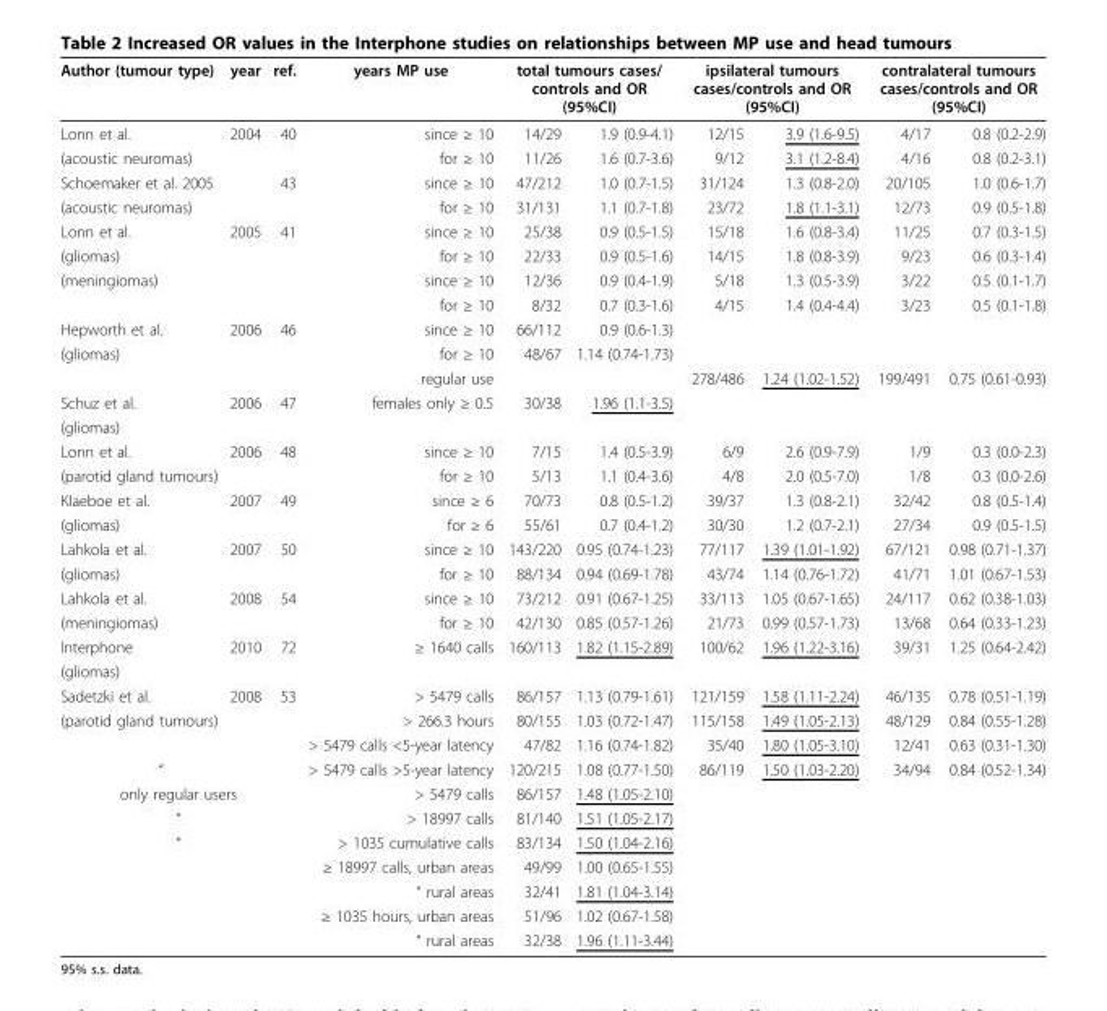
<table><thead><tr><td rowspan="2">Author (tumour type) Lonn et al.</td><td rowspan="2">year 2004</td><td rowspan="2">ref. 40</td><td rowspan="2">years MP use since ≥ 10</td><td colspan="2">total tumours cases/ controls and OR (95%CI)</td><td colspan="2">ipsilateral tumours cases/controls and OR (95%CI)</td><td colspan="2">contralateral tumours cases/controls and OR (95%CI)</td></tr><tr><td>14/29</td><td>1.9 (0.9-4.1)</td><td>12/15</td><td>3.9 (1.6-9.5)</td><td>4/17</td><td>0.8 (0.2-2.9)</td></tr></thead><tbody><tr><td>(acoustic neuromas)</td><td></td><td></td><td>for ≥ 10</td><td>11/26</td><td>1.6 (0.7-3.6)</td><td>9/12</td><td>3.1 (1.2-8.4)</td><td>4/16</td><td>0.8 (0.2-3.1)</td></tr><tr><td>Schoemaker et al. 2005</td><td></td><td>43</td><td>since ≥ 10</td><td>47/212</td><td>1.0 (0.7-1.5)</td><td>31/124</td><td>1.3 (0.8-2.0)</td><td>20/105</td><td>1.0 (0.6-1.7)</td></tr><tr><td>(acoustic neuromas)</td><td></td><td></td><td>for ≥ 10</td><td>31/131</td><td>1.1 (0.7-1.8)</td><td>23/72</td><td>1.8 (1.1-3.1)</td><td>12/73</td><td>0.9 (0.5-1.8)</td></tr><tr><td>Lonn et al.</td><td>2005</td><td>41</td><td>since ≥ 10</td><td>25/38</td><td>0.9 (0.5-1.5)</td><td>15/18</td><td>1.6 (0.8-3.4)</td><td>11/25</td><td>0.7 (0.3-1.5)</td></tr><tr><td>(gliomas)</td><td></td><td></td><td>for ≥ 10</td><td>22/33</td><td>0.9 (0.5-1.6)</td><td>14/15</td><td>1.8 (0.8-3.9)</td><td>9/23</td><td>0.6 (0.3-1.4)</td></tr><tr><td rowspan="2">(meningiomas)</td><td></td><td></td><td>since ≥ 10</td><td>12/36</td><td>0.9 (0.4-1.9)</td><td>5/18</td><td>1.3 (0.5-3.9)</td><td>3/22</td><td>0.5 (0.1-1.7)</td></tr><tr><td></td><td></td><td>for ≥ 10</td><td>8/32</td><td>0.7 (0.3-1.6)</td><td>4/15</td><td>1.4 (0.4-4.4)</td><td>3/23</td><td>0.5 (0.1-1.8)</td></tr><tr><td>Hepworth et al.</td><td>2006</td><td>46</td><td>since ≥ 10</td><td>66/112</td><td>0.9 (0.6-1.3)</td><td></td><td></td><td></td><td></td></tr><tr><td rowspan="2">(gliomas)</td><td></td><td></td><td>for ≥ 10</td><td>48/67</td><td>1.14 (0.74-1.73)</td><td></td><td></td><td></td><td></td></tr><tr><td></td><td></td><td>regular use</td><td></td><td></td><td>278/486</td><td>1.24 (1.02-1.52)</td><td>199/491</td><td>0.75 (0.61-0.93)</td></tr><tr><td>Schuz et al.</td><td>2006</td><td>47</td><td>females only ≥ 0.5</td><td>30/38</td><td>1.96 (1.1-3.5)</td><td></td><td></td><td></td><td></td></tr><tr><td colspan="10">(gliomas)</td></tr><tr><td>Lonn et al.</td><td>2006</td><td>48</td><td>since ≥ 10</td><td>7/15</td><td>1.4 (0.5-3.9)</td><td>6/9</td><td>2.6 (0.9-7.9)</td><td>1/9</td><td>0.3 (0.0-2.3)</td></tr><tr><td>(parotid gland tumours)</td><td></td><td></td><td>for ≥ 10</td><td>5/13</td><td>1.1 (0.4-3.6)</td><td>4/8</td><td>2.0 (0.5-7.0)</td><td>1/8</td><td>0.3 (0.0-2.6)</td></tr><tr><td>Klaeboe et al.</td><td>2007</td><td>49</td><td>since ≥ 6</td><td>70/73</td><td>0.8 (0.5-1.2)</td><td>39/37</td><td>1.3 (0.8-2.1)</td><td>32/42</td><td>0.8 (0.5-1.4)</td></tr><tr><td>(gliomas)</td><td></td><td></td><td>for ≥ 6</td><td>55/61</td><td>0.7 (0.4-1.2)</td><td>30/30</td><td>1.2 (0.7-2.1)</td><td>27/34</td><td>0.9 (0.5-1.5)</td></tr><tr><td>Lahkola et al.</td><td>2007</td><td>50</td><td>since ≥ 10</td><td>143/220</td><td>0.95 (0.74-1.23)</td><td>77/117</td><td>1.39 (1.01-1.92)</td><td>67/121</td><td>0.98 (0.71-1.37)</td></tr><tr><td>(gliomas)</td><td></td><td></td><td>for ≥ 10</td><td>88/134</td><td>0.94 (0.69-1.78)</td><td>43/74</td><td>1.14 (0.76-1.72)</td><td>41/71</td><td>1.01 (0.67-1.53)</td></tr><tr><td>Lahkola et al.</td><td>2008</td><td>54</td><td>since ≥ 10</td><td>73/212</td><td>0.91 (0.67-1.25)</td><td>33/113</td><td>1.05 (0.67-1.65)</td><td>24/117</td><td>0.62 (0.38-1.03)</td></tr><tr><td>(meningiomas)</td><td></td><td></td><td>for ≥ 10</td><td>42/130</td><td>0.85 (0.57-1.26)</td><td>21/73</td><td>0.99 (0.57-1.73)</td><td>13/68</td><td>0.64 (0.33-1.23)</td></tr><tr><td>Interphone</td><td>2010</td><td>72</td><td>≥ 1640 calls</td><td>160/113</td><td>1.82 (1.15-2.89)</td><td>100/62</td><td>1.96 (1.22-3.16)</td><td>39/31</td><td>1.25 (0.64-2.42)</td></tr><tr><td colspan="10">(gliomas)</td></tr><tr><td>Sadetzki et al.</td><td>2008</td><td>53</td><td>&gt; 5479 calls</td><td>86/157</td><td>1.13 (0.79-1.61)</td><td>121/159</td><td>1.58 (1.11-2.24)</td><td>46/135</td><td>0.78 (0.51-1.19)</td></tr><tr><td rowspan="2">(parotid gland tumours)</td><td></td><td></td><td>&gt; 266.3 hours</td><td>80/155</td><td>1.03 (0.72-1.47)</td><td>115/158</td><td>1.49 (1.05-2.13)</td><td>48/129</td><td>0.84 (0.55-1.28)</td></tr><tr><td></td><td></td><td>&gt; 5479 calls &lt;5-year latency</td><td>47/82</td><td>1.16 (0.74-1.82)</td><td>35/40</td><td>1.80 (1.05-3.10)</td><td>12/41</td><td>0.63 (0.31-1.30)</td></tr><tr><td colspan="2">“</td><td></td><td>&gt; 5479 calls &gt;5-year latency</td><td>120/215</td><td>1.08 (0.77-1.50)</td><td>86/119</td><td>1.50 (1.03-2.20)</td><td>34/94</td><td>0.84 (0.52-1.34)</td></tr><tr><td colspan="3">only regular users</td><td>&gt; 5479 calls</td><td>86/157</td><td>1.48 (1.05-2.10)</td><td></td><td></td><td></td><td></td></tr><tr><td colspan="3">“</td><td>&gt; 18997 calls</td><td>81/140</td><td>1.51 (1.05-2.17)</td><td></td><td></td><td></td><td></td></tr><tr><td colspan="3">“</td><td>&gt; 1035 cumulative calls</td><td>83/134</td><td>1.50 (1.04-2.16)</td><td></td><td></td><td></td><td></td></tr><tr><td></td><td></td><td></td><td>≥ 18997 calls, urban areas</td><td>49/99</td><td>1.00 (0.65-1.55)</td><td></td><td></td><td></td><td></td></tr><tr><td></td><td></td><td></td><td>“ rural areas</td><td>32/41</td><td>1.81 (1.04-3.14)</td><td></td><td></td><td></td><td></td></tr><tr><td></td><td></td><td></td><td>≥ 1035 hours, urban areas</td><td>51/96</td><td>1.02 (0.67-1.58)</td><td></td><td></td><td></td><td></td></tr><tr><td></td><td></td><td></td><td>“ rural areas</td><td>32/38</td><td>1.96 (1.11-3.44)</td><td></td><td></td><td></td><td></td></tr></tbody></table>